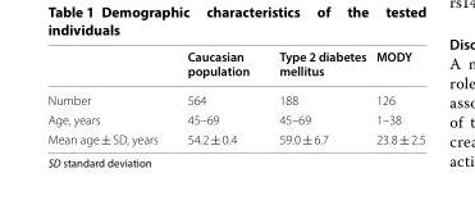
<table><thead><tr><td></td><td>Caucasian population</td><td>Type 2 diabetes mellitus</td><td>MODY</td></tr></thead><tbody><tr><td>Number</td><td>564</td><td>188</td><td>126</td></tr><tr><td>Age, years</td><td>45–69</td><td>45–69</td><td>1–38</td></tr><tr><td>Mean age ± SD, years</td><td>54.2 ± 0.4</td><td>59.0 ± 6.7</td><td>23.8 ± 2.5</td></tr></tbody></table>